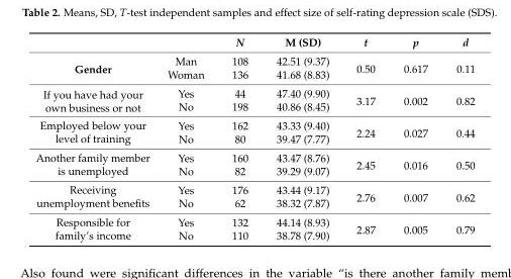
<table><thead><tr><td></td><td></td><td>N</td><td>M (SD)</td><td>t</td><td>p</td><td>d</td></tr></thead><tbody><tr><td rowspan="2">Gender</td><td>Man</td><td>108</td><td>42.51 (9.37)</td><td rowspan="2">0.50</td><td rowspan="2">0.617</td><td rowspan="2">0.11</td></tr><tr><td>Woman</td><td>136</td><td>41.68 (8.83)</td></tr><tr><td rowspan="2">If you have had your own business or not</td><td>Yes</td><td>44</td><td>47.40 (9.90)</td><td rowspan="2">3.17</td><td rowspan="2">0.002</td><td rowspan="2">0.82</td></tr><tr><td>No</td><td>198</td><td>40.86 (8.45)</td></tr><tr><td rowspan="2">Employed below your level of training</td><td>Yes</td><td>162</td><td>43.33 (9.40)</td><td rowspan="2">2.24</td><td rowspan="2">0.027</td><td rowspan="2">0.44</td></tr><tr><td>No</td><td>80</td><td>39.47 (7.77)</td></tr><tr><td rowspan="2">Another family member is unemployed</td><td>Yes</td><td>160</td><td>43.47 (8.76)</td><td rowspan="2">2.45</td><td rowspan="2">0.016</td><td rowspan="2">0.50</td></tr><tr><td>No</td><td>82</td><td>39.29 (9.07)</td></tr><tr><td rowspan="2">Receiving unemployment benefits</td><td>Yes</td><td>176</td><td>43.44 (9.17)</td><td rowspan="2">2.76</td><td rowspan="2">0.007</td><td rowspan="2">0.62</td></tr><tr><td>No</td><td>62</td><td>38.32 (7.87)</td></tr><tr><td rowspan="2">Responsible for family’s income</td><td>Yes</td><td>132</td><td>44.14 (8.93)</td><td rowspan="2">2.87</td><td rowspan="2">0.005</td><td rowspan="2">0.79</td></tr><tr><td>No</td><td>110</td><td>38.78 (7.90)</td></tr></tbody></table>